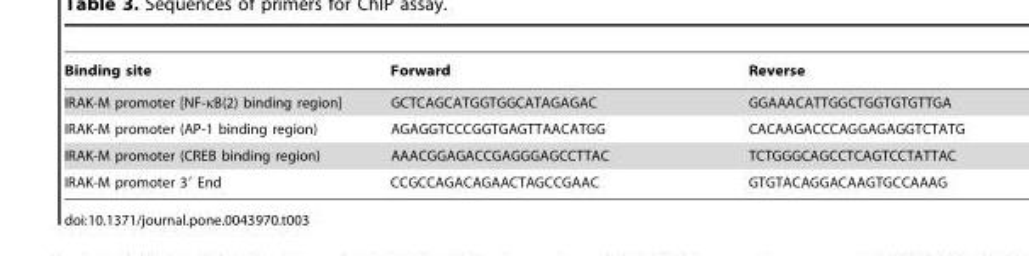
<table><thead><tr><td>Binding site</td><td>Forward</td><td>Reverse</td></tr></thead><tbody><tr><td>IRAK-M promoter [NF-κB(2) binding region]</td><td>GCTCAGCATGGTGGCATAGAGAC</td><td>GGAAACATTGGCTGGTGTGTTGA</td></tr><tr><td>IRAK-M promoter (AP-1 binding region)</td><td>AGAGGTCCCGGTGAGTTAACATGG</td><td>CACAAGACCCAGGAGAGGTCTATG</td></tr><tr><td>IRAK-M promoter (CREB binding region)</td><td>AAACGGAGACCGAGGGAGCCTTAC</td><td>TCTGGGCAGCCTCAGTCCTATTAC</td></tr><tr><td>IRAK-M promoter 3′ End</td><td>CCGCCAGACAGAACTAGCCGAAC</td><td>GTGTACAGGACAAGTGCCAAAG</td></tr></tbody></table>